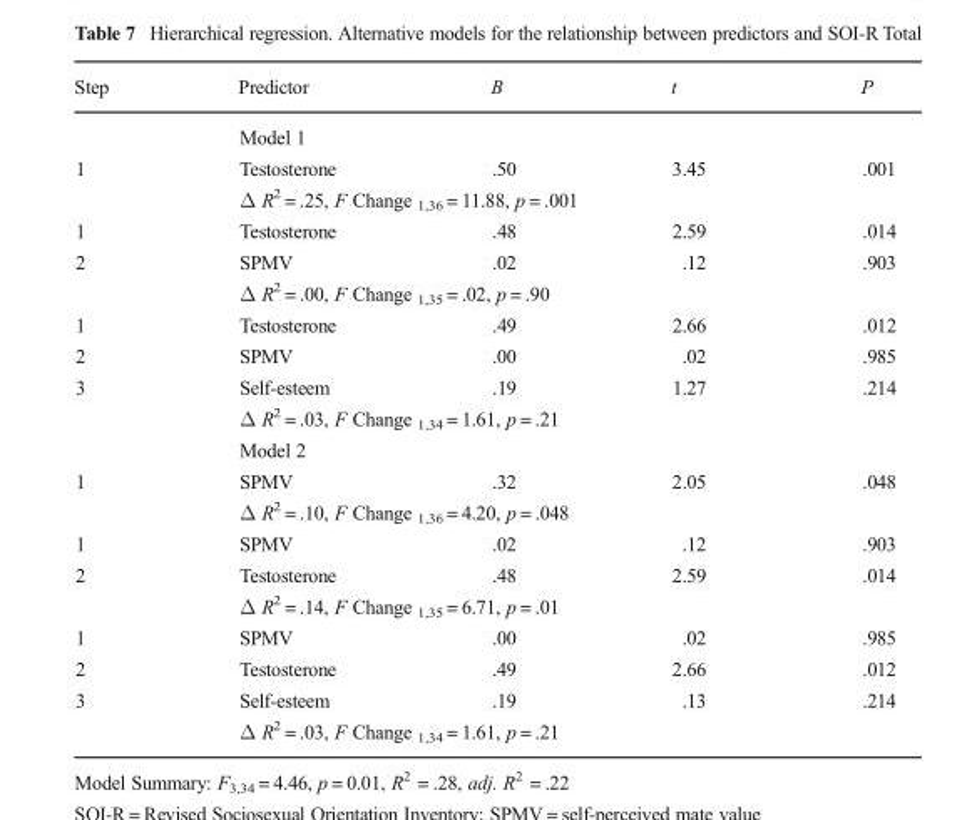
<table><thead><tr><td>Step</td><td>Predictor</td><td>Β</td><td>t</td><td>P</td></tr></thead><tbody><tr><td></td><td colspan="4">Model 1</td></tr><tr><td rowspan="2">1</td><td>Testosterone</td><td>.50</td><td>3.45</td><td>.001</td></tr><tr><td colspan="4">Δ R<sup>2</sup> = .25, F Change <sub>1,36</sub> = 11.88, p = .001</td></tr><tr><td>1</td><td>Testosterone</td><td>.48</td><td>2.59</td><td>.014</td></tr><tr><td rowspan="2">2</td><td>SPMV</td><td>.02</td><td>.12</td><td>.903</td></tr><tr><td colspan="4">Δ R<sup>2</sup> = .00, F Change <sub>1,35</sub> = .02, p = .90</td></tr><tr><td>1</td><td>Testosterone</td><td>.49</td><td>2.66</td><td>.012</td></tr><tr><td>2</td><td>SPMV</td><td>.00</td><td>.02</td><td>.985</td></tr><tr><td rowspan="3">3</td><td>Self-esteem</td><td>.19</td><td>1.27</td><td>.214</td></tr><tr><td colspan="4">Δ R<sup>2</sup> = .03, F Change <sub>1,34</sub> = 1.61, p = .21</td></tr><tr><td colspan="4">Model 2</td></tr><tr><td rowspan="2">1</td><td>SPMV</td><td>.32</td><td>2.05</td><td>.048</td></tr><tr><td colspan="4">Δ R<sup>2</sup> = .10, F Change <sub>1,36</sub> = 4.20, p = .048</td></tr><tr><td>1</td><td>SPMV</td><td>.02</td><td>.12</td><td>.903</td></tr><tr><td rowspan="2">2</td><td>Testosterone</td><td>.48</td><td>2.59</td><td>.014</td></tr><tr><td colspan="4">Δ R<sup>2</sup> = .14, F Change <sub>1,35</sub> = 6.71, p = .01</td></tr><tr><td>1</td><td>SPMV</td><td>.00</td><td>.02</td><td>.985</td></tr><tr><td>2</td><td>Testosterone</td><td>.49</td><td>2.66</td><td>.012</td></tr><tr><td rowspan="2">3</td><td>Self-esteem</td><td>.19</td><td>.13</td><td>.214</td></tr><tr><td colspan="4">Δ R<sup>2</sup> = .03, F Change <sub>1,34</sub> = 1.61, p = .21</td></tr></tbody></table>